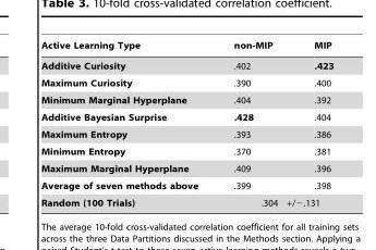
<table><thead><tr><td>Active Learning Type</td><td>non-MIP</td><td>MIP</td></tr></thead><tbody><tr><td>Additive Curiosity</td><td>.402</td><td>.423</td></tr><tr><td>Maximum Curiosity</td><td>.390</td><td>.400</td></tr><tr><td>Minimum Marginal Hyperplane</td><td>.404</td><td>.392</td></tr><tr><td>Additive Bayesian Surprise</td><td>.428</td><td>.404</td></tr><tr><td>Maximum Entropy</td><td>.393</td><td>.386</td></tr><tr><td>Minimum Entropy</td><td>.370</td><td>.381</td></tr><tr><td>Maximum Marginal Hyperplane</td><td>.409</td><td>.396</td></tr><tr><td>Average of seven methods above</td><td>.399</td><td>.398</td></tr><tr><td>Random (100 Trials)</td><td>.304</td><td>+/−.131</td></tr></tbody></table>